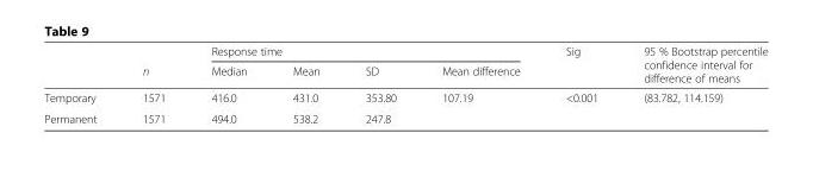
<table><thead><tr><td rowspan="2"></td><td rowspan="2">n</td><td colspan="4">Response time</td><td rowspan="2">Sig</td><td rowspan="2">95 % Bootstrap percentile confidence interval for difference of means</td></tr><tr><td>Median</td><td>Mean</td><td>SD</td><td>Mean difference</td></tr></thead><tbody><tr><td>Temporary</td><td>1571</td><td>416.0</td><td>431.0</td><td>353.80</td><td rowspan="2">107.19</td><td rowspan="2">&lt;0.001</td><td rowspan="2">(83.782, 114.159)</td></tr><tr><td>Permanent</td><td>1571</td><td>494.0</td><td>538.2</td><td>247.8</td></tr></tbody></table>